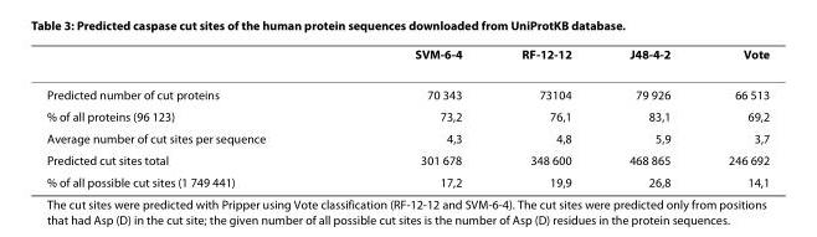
<table><thead><tr><td></td><td>SVM-6-4</td><td>RF-12-12</td><td>J48-4-2</td><td>Vote</td></tr></thead><tbody><tr><td>Predicted number of cut proteins</td><td>70 343</td><td>73104</td><td>79 926</td><td>66 513</td></tr><tr><td>% of all proteins (96 123)</td><td>73,2</td><td>76,1</td><td>83,1</td><td>69,2</td></tr><tr><td>Average number of cut sites per sequence</td><td>4,3</td><td>4,8</td><td>5,9</td><td>3,7</td></tr><tr><td>Predicted cut sites total</td><td>301 678</td><td>348 600</td><td>468 865</td><td>246 692</td></tr><tr><td>% of all possible cut sites (1 749 441)</td><td>17,2</td><td>19,9</td><td>26,8</td><td>14,1</td></tr></tbody></table>